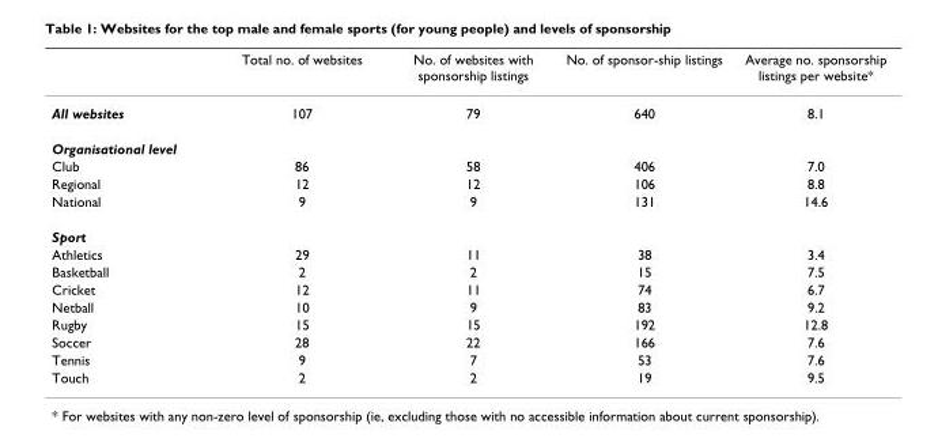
<table><thead><tr><td></td><td>Total no. of websites</td><td>No. of websites with sponsorship listings</td><td>No. of sponsor-ship listings</td><td>Average no. sponsorship listings per website*</td></tr></thead><tbody><tr><td>All websites</td><td>107</td><td>79</td><td>640</td><td>8.1</td></tr><tr><td colspan="5">Organisational level</td></tr><tr><td>Club</td><td>86</td><td>58</td><td>406</td><td>7.0</td></tr><tr><td>Regional</td><td>12</td><td>12</td><td>106</td><td>8.8</td></tr><tr><td>National</td><td>9</td><td>9</td><td>131</td><td>14.6</td></tr><tr><td colspan="5">Sport</td></tr><tr><td>Athletics</td><td>29</td><td>11</td><td>38</td><td>3.4</td></tr><tr><td>Basketball</td><td>2</td><td>2</td><td>15</td><td>7.5</td></tr><tr><td>Cricket</td><td>12</td><td>11</td><td>74</td><td>6.7</td></tr><tr><td>Netball</td><td>10</td><td>9</td><td>83</td><td>9.2</td></tr><tr><td>Rugby</td><td>15</td><td>15</td><td>192</td><td>12.8</td></tr><tr><td>Soccer</td><td>28</td><td>22</td><td>166</td><td>7.6</td></tr><tr><td>Tennis</td><td>9</td><td>7</td><td>53</td><td>7.6</td></tr><tr><td>Touch</td><td>2</td><td>2</td><td>19</td><td>9.5</td></tr></tbody></table>